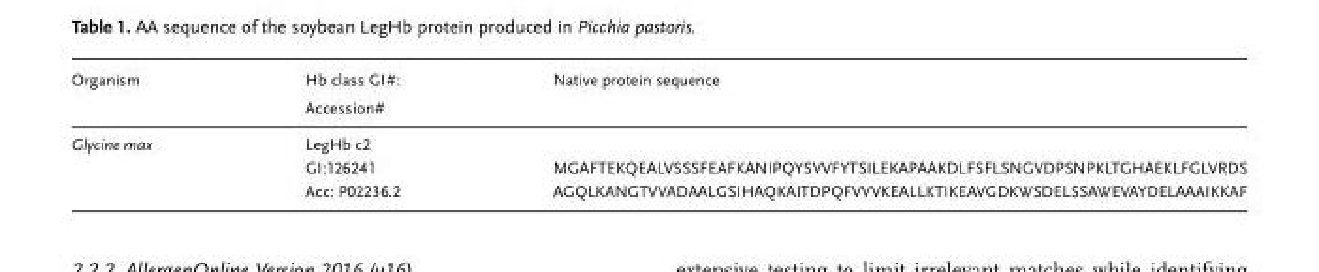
<table><thead><tr><td rowspan="2">Organism</td><td rowspan="2">Hb class GI#: Accession#</td><td rowspan="2">Native protein sequence</td></tr><tr></tr></thead><tbody><tr><td>Glycine max</td><td>LegHb c2 GI:126241 Acc: P02236.2</td><td>MGAFTEKQEALVSSSFEAFKANIPQYSVVFYTSILEKAPAAKDLFSFLSNGVDPSNPKLTGHAEKLFGLVRDS AGQLKANGTVVADAALGSIHAQKAITDPQFVVVKEALLKTIKEAVGDKWSDELSSAWEVAYDELAAAIKKAF</td></tr></tbody></table>